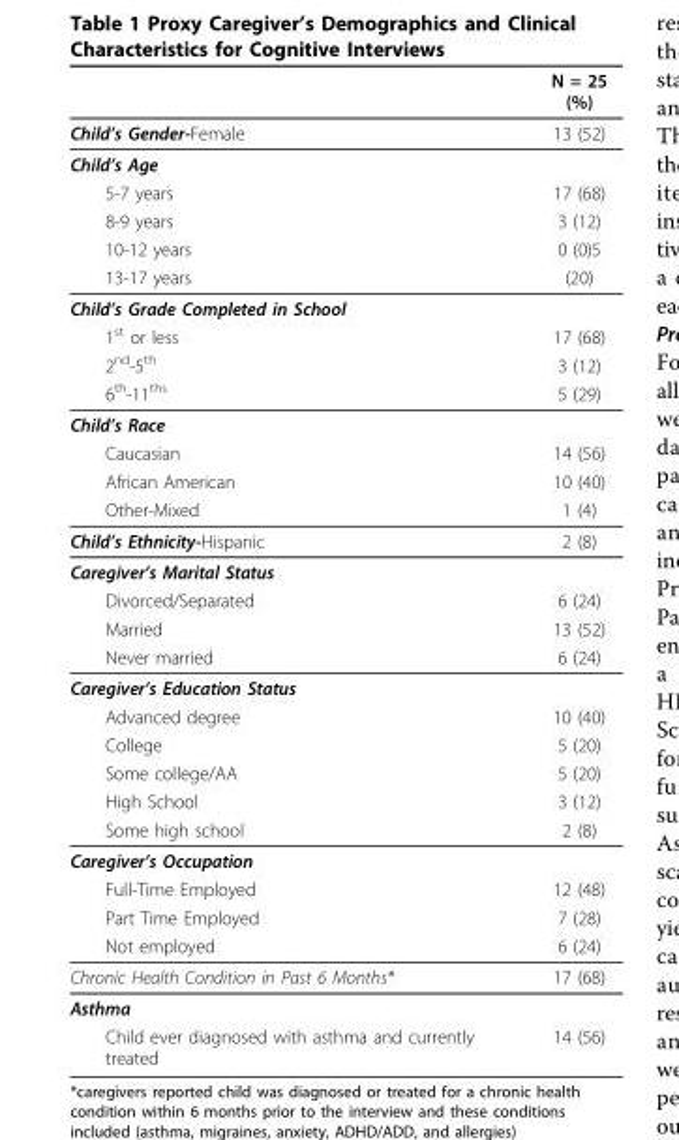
<table><thead><tr><td></td><td>N = 25 (%)</td></tr></thead><tbody><tr><td>Child’s Gender-Female</td><td>13 (52)</td></tr><tr><td colspan="2">Child’s Age</td></tr><tr><td>5-7 years</td><td>17 (68)</td></tr><tr><td>8-9 years</td><td>3 (12)</td></tr><tr><td>10-12 years</td><td>0 (0)5</td></tr><tr><td>13-17 years</td><td>(20)</td></tr><tr><td colspan="2">Child’s Grade Completed in School</td></tr><tr><td>1<sup>st</sup> or less</td><td>17 (68)</td></tr><tr><td>2<sup>nd</sup>-5<sup>th</sup></td><td>3 (12)</td></tr><tr><td>6<sup>th</sup>-11<sup>ths</sup></td><td>5 (29)</td></tr><tr><td colspan="2">Child’s Race</td></tr><tr><td>Caucasian</td><td>14 (56)</td></tr><tr><td>African American</td><td>10 (40)</td></tr><tr><td>Other-Mixed</td><td>1 (4)</td></tr><tr><td>Child’s Ethnicity-Hispanic</td><td>2 (8)</td></tr><tr><td colspan="2">Caregiver’s Marital Status</td></tr><tr><td>Divorced/Separated</td><td>6 (24)</td></tr><tr><td>Married</td><td>13 (52)</td></tr><tr><td>Never married</td><td>6 (24)</td></tr><tr><td colspan="2">Caregiver’s Education Status</td></tr><tr><td>Advanced degree</td><td>10 (40)</td></tr><tr><td>College</td><td>5 (20)</td></tr><tr><td>Some college/AA</td><td>5 (20)</td></tr><tr><td>High School</td><td>3 (12)</td></tr><tr><td>Some high school</td><td>2 (8)</td></tr><tr><td colspan="2">Caregiver’s Occupation</td></tr><tr><td>Full-Time Employed</td><td>12 (48)</td></tr><tr><td>Part Time Employed</td><td>7 (28)</td></tr><tr><td>Not employed</td><td>6 (24)</td></tr><tr><td>Chronic Health Condition in Past 6 Months*</td><td>17 (68)</td></tr><tr><td colspan="2">Asthma</td></tr><tr><td>Child ever diagnosed with asthma and currently treated</td><td>14 (56)</td></tr></tbody></table>